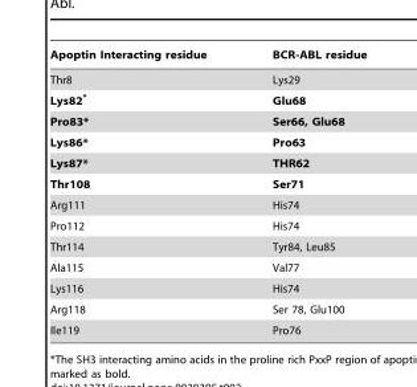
<table><thead><tr><td>Apoptin Interacting residue</td><td>BCR-ABL residue</td></tr></thead><tbody><tr><td>Thr8</td><td>Lys29</td></tr><tr><td>Lys82*</td><td>Glu68</td></tr><tr><td>Pro83*</td><td>Ser66, Glu68</td></tr><tr><td>Lys86*</td><td>Pro63</td></tr><tr><td>Lys87*</td><td>THR62</td></tr><tr><td>Thr108</td><td>Ser71</td></tr><tr><td>Arg111</td><td>His74</td></tr><tr><td>Pro112</td><td>His74</td></tr><tr><td>Thr114</td><td>Tyr84, Leu85</td></tr><tr><td>Ala115</td><td>Val77</td></tr><tr><td>Lys116</td><td>His74</td></tr><tr><td>Arg118</td><td>Ser 78, Glu100</td></tr><tr><td>Ile119</td><td>Pro76</td></tr></tbody></table>